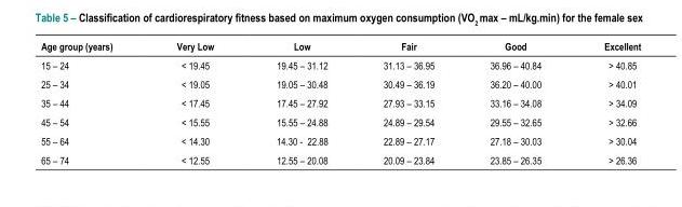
<table><thead><tr><td>Age group (years)</td><td>Very Low</td><td>Low</td><td>Fair</td><td>Good</td><td>Excellent</td></tr></thead><tbody><tr><td>15 – 24</td><td>&lt; 19.45</td><td>19.45 – 31.12</td><td>31.13 – 36.95</td><td>36.96 – 40.84</td><td>&gt; 40.85</td></tr><tr><td>25 – 34</td><td>&lt; 19.05</td><td>19.05 – 30.48</td><td>30.49 – 36.19</td><td>36.20 – 40.00</td><td>&gt; 40.01</td></tr><tr><td>35 – 44</td><td>&lt; 17.45</td><td>17.45 – 27.92</td><td>27.93 – 33.15</td><td>33.16 – 34.08</td><td>&gt; 34.09</td></tr><tr><td>45 – 54</td><td>&lt; 15.55</td><td>15.55 – 24.88</td><td>24.89 – 29.54</td><td>29.55 – 32.65</td><td>&gt; 32.66</td></tr><tr><td>55 – 64</td><td>&lt; 14.30</td><td>14.30 - 22.88</td><td>22.89 – 27.17</td><td>27.18 – 30.03</td><td>&gt; 30.04</td></tr><tr><td>65 – 74</td><td>&lt; 12.55</td><td>12.55 – 20.08</td><td>20.09 – 23.84</td><td>23.85 – 26.35</td><td>&gt; 26.36</td></tr></tbody></table>